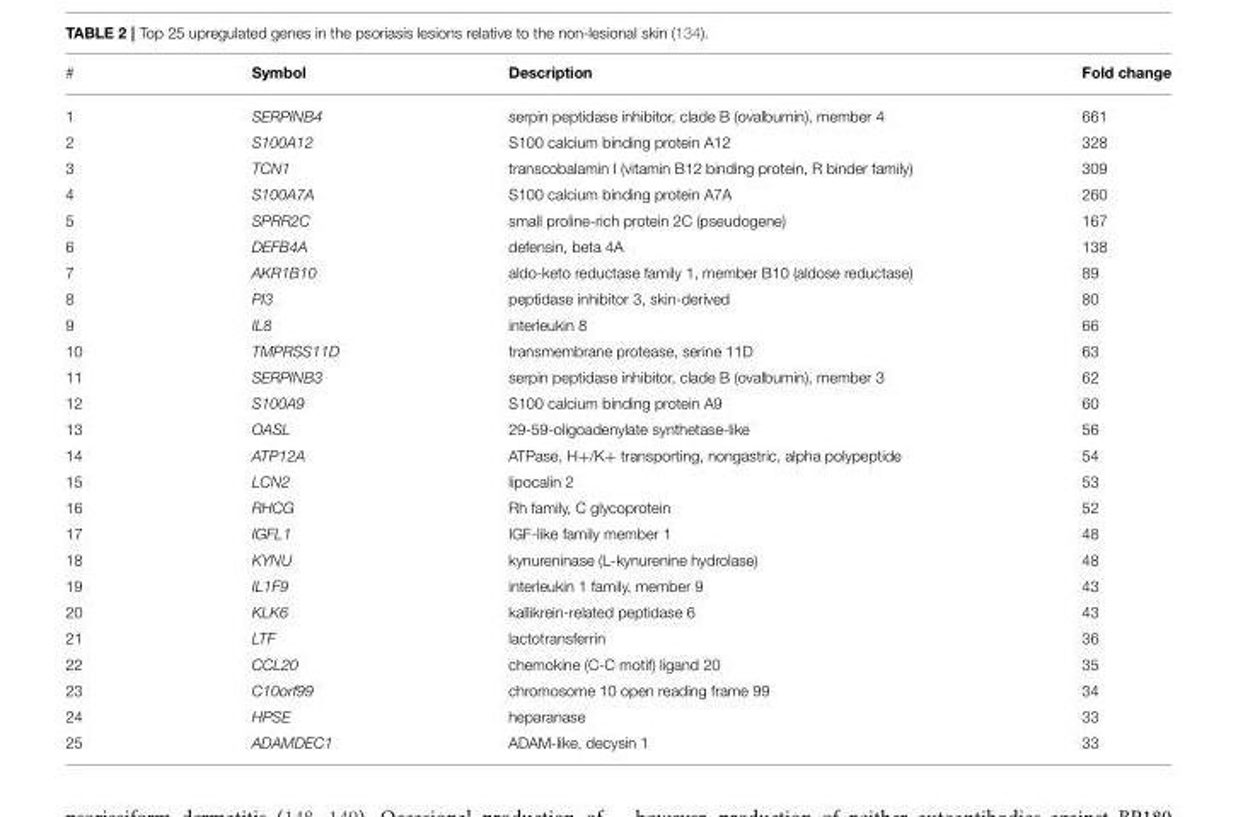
<table><thead><tr><td>#</td><td>Symbol</td><td>Description</td><td>Fold change</td></tr></thead><tbody><tr><td>1</td><td>SERPINB4</td><td>serpin peptidase inhibitor, clade B (ovalbumin), member 4</td><td>661</td></tr><tr><td>2</td><td>S100A12</td><td>S100 calcium binding protein A12</td><td>328</td></tr><tr><td>3</td><td>TCN1</td><td>transcobalamin I (vitamin B12 binding protein, R binder family)</td><td>309</td></tr><tr><td>4</td><td>S100A7A</td><td>S100 calcium binding protein A7A</td><td>260</td></tr><tr><td>5</td><td>SPRR2C</td><td>small proline-rich protein 2C (pseudogene)</td><td>167</td></tr><tr><td>6</td><td>DEFB4A</td><td>defensin, beta 4A</td><td>138</td></tr><tr><td>7</td><td>AKR1B10</td><td>aldo-keto reductase family 1, member B10 (aldose reductase)</td><td>89</td></tr><tr><td>8</td><td>PI3</td><td>peptidase inhibitor 3, skin-derived</td><td>80</td></tr><tr><td>9</td><td>IL8</td><td>interleukin 8</td><td>66</td></tr><tr><td>10</td><td>TMPRSS11D</td><td>transmembrane protease, serine 11D</td><td>63</td></tr><tr><td>11</td><td>SERPINB3</td><td>serpin peptidase inhibitor, clade B (ovalbumin), member 3</td><td>62</td></tr><tr><td>12</td><td>S100A9</td><td>S100 calcium binding protein A9</td><td>60</td></tr><tr><td>13</td><td>OASL</td><td>29-59-oligoadenylate synthetase-like</td><td>56</td></tr><tr><td>14</td><td>ATP12A</td><td>ATPase, H+/K+ transporting, nongastric, alpha polypeptide</td><td>54</td></tr><tr><td>15</td><td>LCN2</td><td>lipocalin 2</td><td>53</td></tr><tr><td>16</td><td>RHCG</td><td>Rh family, C glycoprotein</td><td>52</td></tr><tr><td>17</td><td>IGFL1</td><td>IGF-like family member 1</td><td>48</td></tr><tr><td>18</td><td>KYNU</td><td>kynureninase (L-kynurenine hydrolase)</td><td>48</td></tr><tr><td>19</td><td>IL1F9</td><td>interleukin 1 family, member 9</td><td>43</td></tr><tr><td>20</td><td>KLK6</td><td>kallikrein-related peptidase 6</td><td>43</td></tr><tr><td>21</td><td>LTF</td><td>lactotransferrin</td><td>36</td></tr><tr><td>22</td><td>CCL20</td><td>chemokine (C-C motif) ligand 20</td><td>35</td></tr><tr><td>23</td><td>C10orf99</td><td>chromosome 10 open reading frame 99</td><td>34</td></tr><tr><td>24</td><td>HPSE</td><td>heparanase</td><td>33</td></tr><tr><td>25</td><td>ADAMDEC1</td><td>ADAM-like, decysin 1</td><td>33</td></tr></tbody></table>